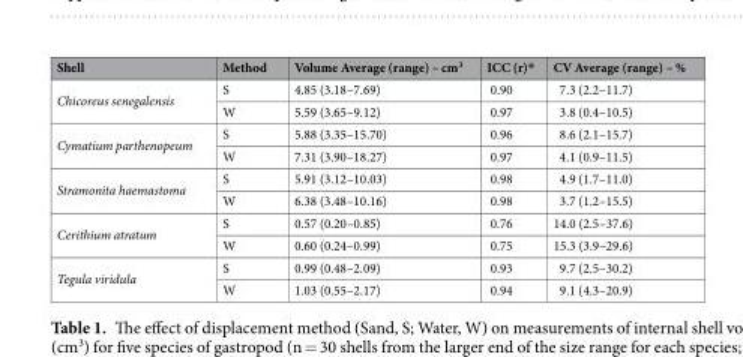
<table><thead><tr><td>Shell</td><td>Method</td><td>Volume Average (range) – cm<sup>3</sup></td><td>ICC (r)*</td><td>CV Average (range) – %</td></tr></thead><tbody><tr><td rowspan="2">Chicoreus senegalensis</td><td>S</td><td>4.85 (3.18–7.69)</td><td>0.90</td><td>7.3 (2.2–11.7)</td></tr><tr><td>W</td><td>5.59 (3.65–9.12)</td><td>0.97</td><td>3.8 (0.4–10.5)</td></tr><tr><td rowspan="2">Cymatium parthenopeum</td><td>S</td><td>5.88 (3.35–15.70)</td><td>0.96</td><td>8.6 (2.1–15.7)</td></tr><tr><td>W</td><td>7.31 (3.90–18.27)</td><td>0.97</td><td>4.1 (0.9–11.5)</td></tr><tr><td rowspan="2">Stramonita haemastoma</td><td>S</td><td>5.91 (3.12–10.03)</td><td>0.98</td><td>4.9 (1.7–11.0)</td></tr><tr><td>W</td><td>6.38 (3.48–10.16)</td><td>0.98</td><td>3.7 (1.2–15.5)</td></tr><tr><td rowspan="2">Cerithium atratum</td><td>S</td><td>0.57 (0.20–0.85)</td><td>0.76</td><td>14.0 (2.5–37.6)</td></tr><tr><td>W</td><td>0.60 (0.24–0.99)</td><td>0.75</td><td>15.3 (3.9–29.6)</td></tr><tr><td rowspan="2">Tegula viridula</td><td>S</td><td>0.99 (0.48–2.09)</td><td>0.93</td><td>9.7 (2.5–30.2)</td></tr><tr><td>W</td><td>1.03 (0.55–2.17)</td><td>0.94</td><td>9.1 (4.3–20.9)</td></tr></tbody></table>